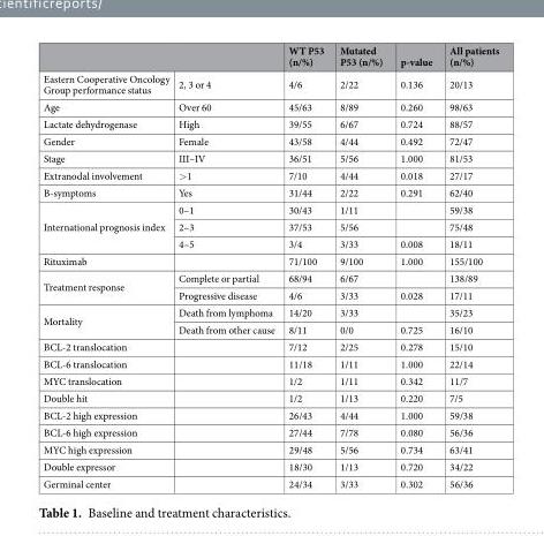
<table><thead><tr><td></td><td></td><td>WT P53 (n/%)</td><td>Mutated P53 (n/%)</td><td>p-value</td><td>All patients (n/%)</td></tr></thead><tbody><tr><td>Eastern Cooperative Oncology Group performance status</td><td>2, 3 or 4</td><td>4/6</td><td>2/22</td><td>0.136</td><td>20/13</td></tr><tr><td>Age</td><td>Over 60</td><td>45/63</td><td>8/89</td><td>0.260</td><td>98/63</td></tr><tr><td>Lactate dehydrogenase</td><td>High</td><td>39/55</td><td>6/67</td><td>0.724</td><td>88/57</td></tr><tr><td>Gender</td><td>Female</td><td>43/58</td><td>4/44</td><td>0.492</td><td>72/47</td></tr><tr><td>Stage</td><td>III–IV</td><td>36/51</td><td>5/56</td><td>1.000</td><td>81/53</td></tr><tr><td>Extranodal involvement</td><td>&gt;1</td><td>7/10</td><td>4/44</td><td>0.018</td><td>27/17</td></tr><tr><td>B-symptoms</td><td>Yes</td><td>31/44</td><td>2/22</td><td>0.291</td><td>62/40</td></tr><tr><td rowspan="3">International prognosis index</td><td>0–1</td><td>30/43</td><td>1/11</td><td></td><td>59/38</td></tr><tr><td>2–3</td><td>37/53</td><td>5/56</td><td></td><td>75/48</td></tr><tr><td>4–5</td><td>3/4</td><td>3/33</td><td>0.008</td><td>18/11</td></tr><tr><td>Rituximab</td><td></td><td>71/100</td><td>9/100</td><td>1.000</td><td>155/100</td></tr><tr><td rowspan="2">Treatment response</td><td>Complete or partial</td><td>68/94</td><td>6/67</td><td></td><td>138/89</td></tr><tr><td>Progressive disease</td><td>4/6</td><td>3/33</td><td>0.028</td><td>17/11</td></tr><tr><td rowspan="2">Mortality</td><td>Death from lymphoma</td><td>14/20</td><td>3/33</td><td></td><td>35/23</td></tr><tr><td>Death from other cause</td><td>8/11</td><td>0/0</td><td>0.725</td><td>16/10</td></tr><tr><td>BCL-2 translocation</td><td></td><td>7/12</td><td>2/25</td><td>0.278</td><td>15/10</td></tr><tr><td>BCL-6 translocation</td><td></td><td>11/18</td><td>1/11</td><td>1.000</td><td>22/14</td></tr><tr><td>MYC translocation</td><td></td><td>1/2</td><td>1/11</td><td>0.342</td><td>11/7</td></tr><tr><td>Double hit</td><td></td><td>1/2</td><td>1/13</td><td>0.220</td><td>7/5</td></tr><tr><td>BCL-2 high expression</td><td></td><td>26/43</td><td>4/44</td><td>1.000</td><td>59/38</td></tr><tr><td>BCL-6 high expression</td><td></td><td>27/44</td><td>7/78</td><td>0.080</td><td>56/36</td></tr><tr><td>MYC high expression</td><td></td><td>29/48</td><td>5/56</td><td>0.734</td><td>63/41</td></tr><tr><td>Double expressor</td><td></td><td>18/30</td><td>1/13</td><td>0.720</td><td>34/22</td></tr><tr><td>Germinal center</td><td></td><td>24/34</td><td>3/33</td><td>0.302</td><td>56/36</td></tr></tbody></table>